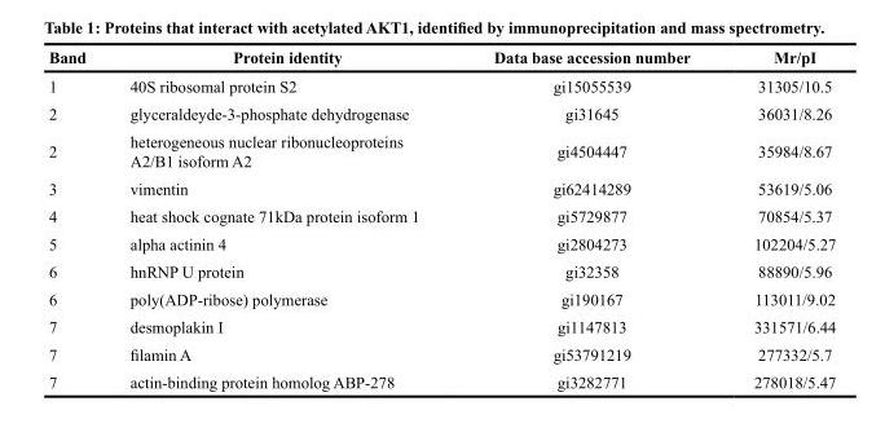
<table><thead><tr><td>Band</td><td>Protein identity</td><td>Data base accession number</td><td>Mr/pI</td></tr></thead><tbody><tr><td>1</td><td>40S ribosomal protein S2</td><td>gi15055539</td><td>31305/10.5</td></tr><tr><td>2</td><td>glyceraldeyde-3-phosphate dehydrogenase</td><td>gi31645</td><td>36031/8.26</td></tr><tr><td>2</td><td>heterogeneous nuclear ribonucleoproteins A2/B1 isoform A2</td><td>gi4504447</td><td>35984/8.67</td></tr><tr><td>3</td><td>vimentin</td><td>gi62414289</td><td>53619/5.06</td></tr><tr><td>4</td><td>heat shock cognate 71kDa protein isoform 1</td><td>gi5729877</td><td>70854/5.37</td></tr><tr><td>5</td><td>alpha actinin 4</td><td>gi2804273</td><td>102204/5.27</td></tr><tr><td>6</td><td>hnRNP U protein</td><td>gi32358</td><td>88890/5.96</td></tr><tr><td>6</td><td>poly(ADP-ribose) polymerase</td><td>gi190167</td><td>113011/9.02</td></tr><tr><td>7</td><td>desmoplakin I</td><td>gi1147813</td><td>331571/6.44</td></tr><tr><td>7</td><td>filamin A</td><td>gi53791219</td><td>277332/5.7</td></tr><tr><td>7</td><td>actin-binding protein homolog ABP-278</td><td>gi3282771</td><td>278018/5.47</td></tr></tbody></table>